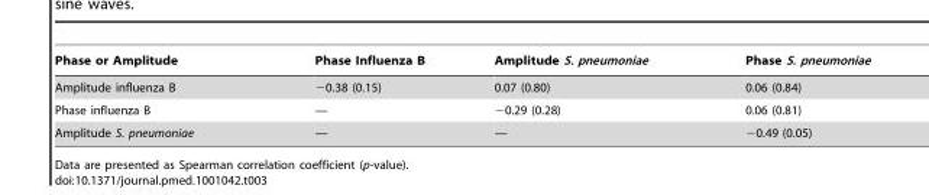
<table><thead><tr><td>Phase or Amplitude</td><td>Phase Influenza B</td><td>Amplitude S. pneumoniae</td><td>Phase S. pneumoniae</td></tr></thead><tbody><tr><td>Amplitude influenza B</td><td>−0.38 (0.15)</td><td>0.07 (0.80)</td><td>0.06 (0.84)</td></tr><tr><td>Phase influenza B</td><td>—</td><td>−0.29 (0.28)</td><td>0.06 (0.81)</td></tr><tr><td>Amplitude S. pneumoniae</td><td>—</td><td>—</td><td>−0.49 (0.05)</td></tr></tbody></table>